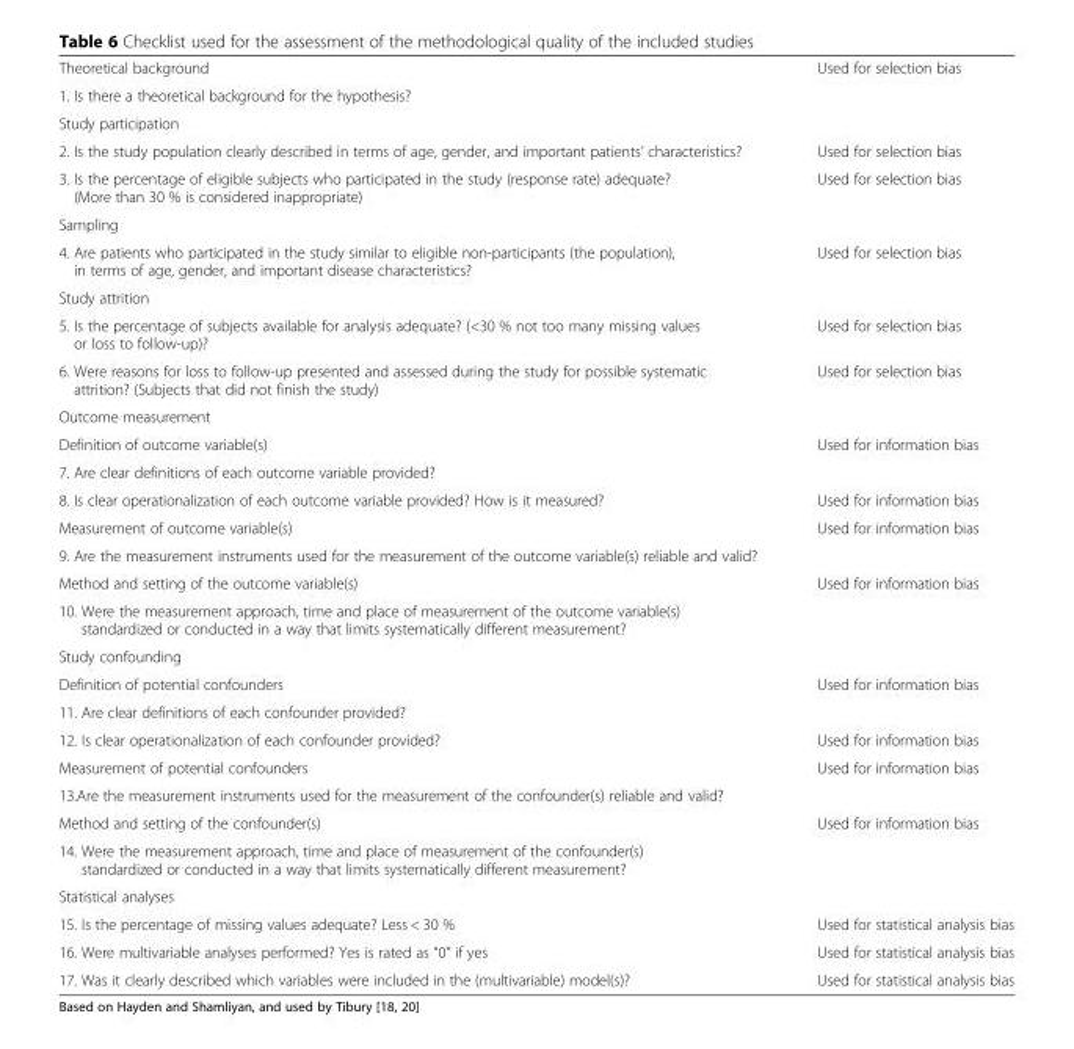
<table><tbody><tr><td>Theoretical background</td><td rowspan="2">Used for selection bias</td></tr><tr><td>1. Is there a theoretical background for the hypothesis?</td></tr><tr><td colspan="2">Study participation</td></tr><tr><td>2. Is the study population clearly described in terms of age, gender, and important patients’ characteristics?</td><td>Used for selection bias</td></tr><tr><td>3. Is the percentage of eligible subjects who participated in the study (response rate) adequate? (More than 30 % is considered inappropriate)</td><td>Used for selection bias</td></tr><tr><td colspan="2">Sampling</td></tr><tr><td>4. Are patients who participated in the study similar to eligible non-participants (the population), in terms of age, gender, and important disease characteristics?</td><td>Used for selection bias</td></tr><tr><td colspan="2">Study attrition</td></tr><tr><td>5. Is the percentage of subjects available for analysis adequate? (&lt;30 % not too many missing values or loss to follow-up)?</td><td>Used for selection bias</td></tr><tr><td>6. Were reasons for loss to follow-up presented and assessed during the study for possible systematic attrition? (Subjects that did not finish the study)</td><td>Used for selection bias</td></tr><tr><td colspan="2">Outcome measurement</td></tr><tr><td>Definition of outcome variable(s)</td><td rowspan="2">Used for information bias</td></tr><tr><td>7. Are clear definitions of each outcome variable provided?</td></tr><tr><td>8. Is clear operationalization of each outcome variable provided? How is it measured?</td><td>Used for information bias</td></tr><tr><td>Measurement of outcome variable(s)</td><td rowspan="2">Used for information bias</td></tr><tr><td>9. Are the measurement instruments used for the measurement of the outcome variable(s) reliable and valid?</td></tr><tr><td>Method and setting of the outcome variable(s)</td><td rowspan="2">Used for information bias</td></tr><tr><td>10. Were the measurement approach, time and place of measurement of the outcome variable(s) standardized or conducted in a way that limits systematically different measurement?</td></tr><tr><td colspan="2">Study confounding</td></tr><tr><td>Definition of potential confounders</td><td rowspan="2">Used for information bias</td></tr><tr><td>11. Are clear definitions of each confounder provided?</td></tr><tr><td>12. Is clear operationalization of each confounder provided?</td><td>Used for information bias</td></tr><tr><td>Measurement of potential confounders</td><td rowspan="2">Used for information bias</td></tr><tr><td>13.Are the measurement instruments used for the measurement of the confounder(s) reliable and valid?</td></tr><tr><td>Method and setting of the confounder(s)</td><td rowspan="2">Used for information bias</td></tr><tr><td>14. Were the measurement approach, time and place of measurement of the confounder(s) standardized or conducted in a way that limits systematically different measurement?</td></tr><tr><td colspan="2">Statistical analyses</td></tr><tr><td>15. Is the percentage of missing values adequate? Less &lt; 30 %</td><td>Used for statistical analysis bias</td></tr><tr><td>16. Were multivariable analyses performed? Yes is rated as “0” if yes</td><td>Used for statistical analysis bias</td></tr><tr><td>17. Was it clearly described which variables were included in the (multivariable) model(s)?</td><td>Used for statistical analysis bias</td></tr></tbody></table>